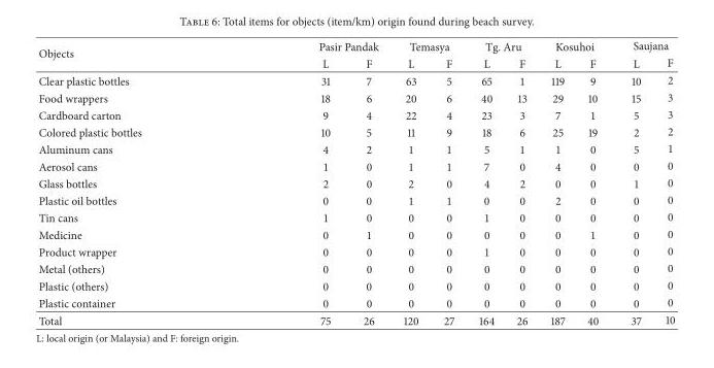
<table><thead><tr><td rowspan="2">Objects</td><td colspan="2">Pasir Pandak</td><td colspan="2">Temasya</td><td colspan="2">Tg. Aru</td><td colspan="2">Kosuhoi</td><td colspan="2">Saujana</td></tr><tr><td>L</td><td>F</td><td>L</td><td>F</td><td>L</td><td>F</td><td>L</td><td>F</td><td>L</td><td>F</td></tr></thead><tbody><tr><td>Clear plastic bottles</td><td>31</td><td>7</td><td>63</td><td>5</td><td>65</td><td>1</td><td>119</td><td>9</td><td>10</td><td>2</td></tr><tr><td>Food wrappers</td><td>18</td><td>6</td><td>20</td><td>6</td><td>40</td><td>13</td><td>29</td><td>10</td><td>15</td><td>3</td></tr><tr><td>Cardboard carton</td><td>9</td><td>4</td><td>22</td><td>4</td><td>23</td><td>3</td><td>7</td><td>1</td><td>5</td><td>3</td></tr><tr><td>Colored plastic bottles</td><td>10</td><td>5</td><td>11</td><td>9</td><td>18</td><td>6</td><td>25</td><td>19</td><td>2</td><td>2</td></tr><tr><td>Aluminum cans</td><td>4</td><td>2</td><td>1</td><td>1</td><td>5</td><td>1</td><td>1</td><td>0</td><td>5</td><td>1</td></tr><tr><td>Aerosol cans</td><td>1</td><td>0</td><td>1</td><td>1</td><td>7</td><td>0</td><td>4</td><td>0</td><td>0</td><td>0</td></tr><tr><td>Glass bottles</td><td>2</td><td>0</td><td>2</td><td>0</td><td>4</td><td>2</td><td>0</td><td>0</td><td>1</td><td>0</td></tr><tr><td>Plastic oil bottles</td><td>0</td><td>0</td><td>1</td><td>1</td><td>0</td><td>0</td><td>2</td><td>0</td><td>0</td><td>0</td></tr><tr><td>Tin cans</td><td>1</td><td>0</td><td>0</td><td>0</td><td>1</td><td>0</td><td>0</td><td>0</td><td>0</td><td>0</td></tr><tr><td>Medicine</td><td>0</td><td>1</td><td>0</td><td>0</td><td>0</td><td>0</td><td>0</td><td>1</td><td>0</td><td>0</td></tr><tr><td>Product wrapper</td><td>0</td><td>0</td><td>0</td><td>0</td><td>1</td><td>0</td><td>0</td><td>0</td><td>0</td><td>0</td></tr><tr><td>Metal (others)</td><td>0</td><td>0</td><td>0</td><td>0</td><td>0</td><td>0</td><td>0</td><td>0</td><td>0</td><td>0</td></tr><tr><td>Plastic (others)</td><td>0</td><td>0</td><td>0</td><td>0</td><td>0</td><td>0</td><td>0</td><td>0</td><td>0</td><td>0</td></tr><tr><td>Plastic container</td><td>0</td><td>0</td><td>0</td><td>0</td><td>0</td><td>0</td><td>0</td><td>0</td><td>0</td><td>0</td></tr><tr><td>Total</td><td>75</td><td>26</td><td>120</td><td>27</td><td>164</td><td>26</td><td>187</td><td>40</td><td>37</td><td>10</td></tr></tbody></table>